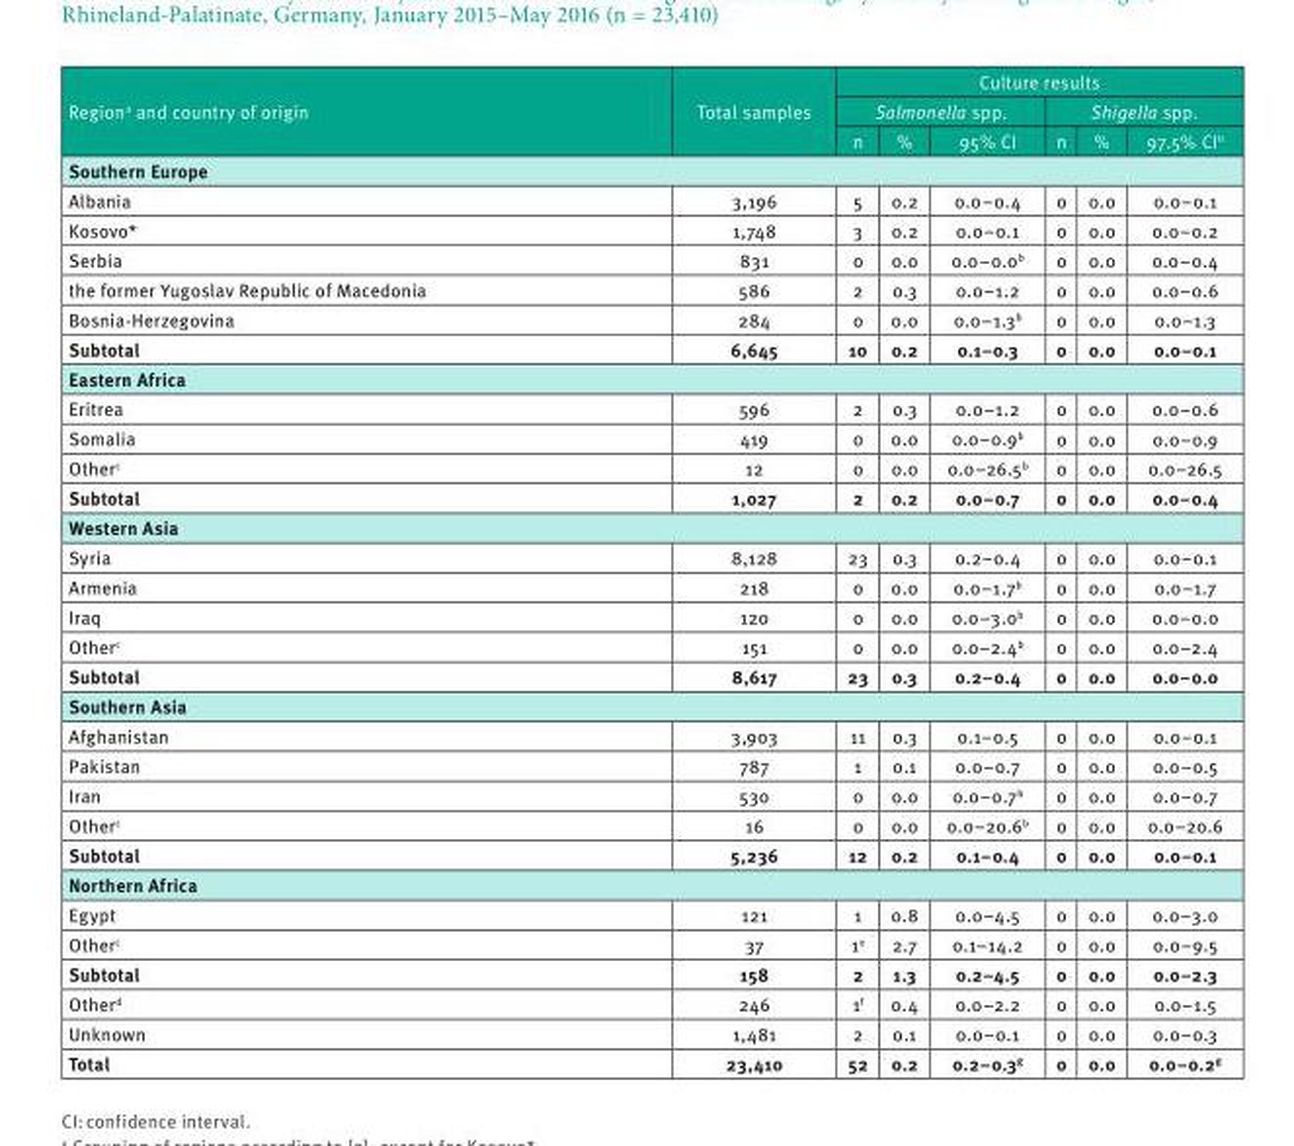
<table><thead><tr><td rowspan="3">Region<sup>a</sup> and country of origin</td><td rowspan="3">Total samples</td><td colspan="6">Culture results</td></tr><tr><td colspan="3">Salmonella spp.</td><td colspan="3">Shigella spp.</td></tr><tr><td>n</td><td>%</td><td>95% CI</td><td>n</td><td>%</td><td>97.5% CI<sup>b</sup></td></tr></thead><tbody><tr><td colspan="8">Southern Europe</td></tr><tr><td>Albania</td><td>3,196</td><td>5</td><td>0.2</td><td>0.0–0.4</td><td>0</td><td>0.0</td><td>0.0–0.1</td></tr><tr><td>Kosovo*</td><td>1,748</td><td>3</td><td>0.2</td><td>0.0–0.1</td><td>0</td><td>0.0</td><td>0.0–0.2</td></tr><tr><td>Serbia</td><td>831</td><td>0</td><td>0.0</td><td>0.0–0.0<sup>b</sup></td><td>0</td><td>0.0</td><td>0.0–0.4</td></tr><tr><td>the former Yugoslav Republic of Macedonia</td><td>586</td><td>2</td><td>0.3</td><td>0.0–1.2</td><td>0</td><td>0.0</td><td>0.0–0.6</td></tr><tr><td>Bosnia-Herzegovina</td><td>284</td><td>0</td><td>0.0</td><td>0.0–1.3<sup>b</sup></td><td>0</td><td>0.0</td><td>0.0–1.3</td></tr><tr><td>Subtotal</td><td>6,645</td><td>10</td><td>0.2</td><td>0.1–0.3</td><td>0</td><td>0.0</td><td>0.0–0.1</td></tr><tr><td colspan="8">Eastern Africa</td></tr><tr><td>Eritrea</td><td>596</td><td>2</td><td>0.3</td><td>0.0–1.2</td><td>0</td><td>0.0</td><td>0.0–0.6</td></tr><tr><td>Somalia</td><td>419</td><td>0</td><td>0.0</td><td>0.0–0.9<sup>b</sup></td><td>0</td><td>0.0</td><td>0.0–0.9</td></tr><tr><td>Other<sup>c</sup></td><td>12</td><td>0</td><td>0.0</td><td>0.0–26.5<sup>b</sup></td><td>0</td><td>0.0</td><td>0.0–26.5</td></tr><tr><td>Subtotal</td><td>1,027</td><td>2</td><td>0.2</td><td>0.0–0.7</td><td>0</td><td>0.0</td><td>0.0–0.4</td></tr><tr><td colspan="8">Western Asia</td></tr><tr><td>Syria</td><td>8,128</td><td>23</td><td>0.3</td><td>0.2–0.4</td><td>0</td><td>0.0</td><td>0.0–0.1</td></tr><tr><td>Armenia</td><td>218</td><td>0</td><td>0.0</td><td>0.0–1.7<sup>b</sup></td><td>0</td><td>0.0</td><td>0.0–1.7</td></tr><tr><td>Iraq</td><td>120</td><td>0</td><td>0.0</td><td>0.0–3.0<sup>b</sup></td><td>0</td><td>0.0</td><td>0.0–0.0</td></tr><tr><td>Other<sup>c</sup></td><td>151</td><td>0</td><td>0.0</td><td>0.0–2.4<sup>b</sup></td><td>0</td><td>0.0</td><td>0.0–2.4</td></tr><tr><td>Subtotal</td><td>8,617</td><td>23</td><td>0.3</td><td>0.2–0.4</td><td>0</td><td>0.0</td><td>0.0–0.0</td></tr><tr><td colspan="8">Southern Asia</td></tr><tr><td>Afghanistan</td><td>3,903</td><td>11</td><td>0.3</td><td>0.1–0.5</td><td>0</td><td>0.0</td><td>0.0–0.1</td></tr><tr><td>Pakistan</td><td>787</td><td>1</td><td>0.1</td><td>0.0–0.7</td><td>0</td><td>0.0</td><td>0.0–0.5</td></tr><tr><td>Iran</td><td>530</td><td>0</td><td>0.0</td><td>0.0–0.7<sup>b</sup></td><td>0</td><td>0.0</td><td>0.0–0.7</td></tr><tr><td>Other<sup>c</sup></td><td>16</td><td>0</td><td>0.0</td><td>0.0–20.6<sup>b</sup></td><td>0</td><td>0.0</td><td>0.0–20.6</td></tr><tr><td>Subtotal</td><td>5,236</td><td>12</td><td>0.2</td><td>0.1–0.4</td><td>0</td><td>0.0</td><td>0.0–0.1</td></tr><tr><td colspan="8">Northern Africa</td></tr><tr><td>Egypt</td><td>121</td><td>1</td><td>0.8</td><td>0.0–4.5</td><td>0</td><td>0.0</td><td>0.0–3.0</td></tr><tr><td>Other<sup>c</sup></td><td>37</td><td>1<sup>e</sup></td><td>2.7</td><td>0.1–14.2</td><td>0</td><td>0.0</td><td>0.0–9.5</td></tr><tr><td>Subtotal</td><td>158</td><td>2</td><td>1.3</td><td>0.2–4.5</td><td>0</td><td>0.0</td><td>0.0–2.3</td></tr><tr><td>Other<sup>d</sup></td><td>246</td><td>1<sup>f</sup></td><td>0.4</td><td>0.0–2.2</td><td>0</td><td>0.0</td><td>0.0–1.5</td></tr><tr><td>Unknown</td><td>1,481</td><td>2</td><td>0.1</td><td>0.0–0.1</td><td>0</td><td>0.0</td><td>0.0–0.3</td></tr><tr><td>Total</td><td>23,410</td><td>52</td><td>0.2</td><td>0.2–0.3<sup>g</sup></td><td>0</td><td>0.0</td><td>0.0–0.2<sup>g</sup></td></tr></tbody></table>